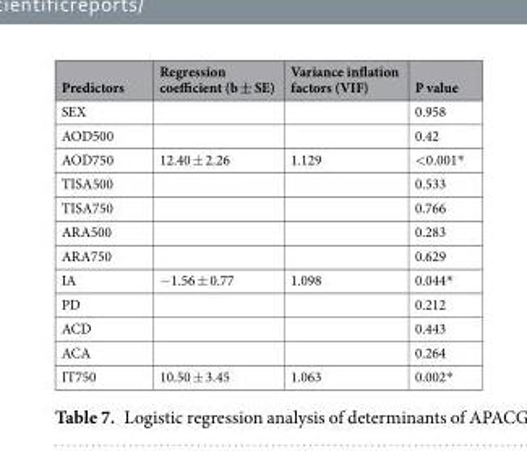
<table><thead><tr><td>Predictors</td><td>Regression coefficient (b ± SE)</td><td>Variance inflation factors (VIF)</td><td>P value</td></tr></thead><tbody><tr><td>SEX</td><td></td><td></td><td>0.958</td></tr><tr><td>AOD500</td><td></td><td></td><td>0.42</td></tr><tr><td>AOD750</td><td>12.40 ± 2.26</td><td>1.129</td><td>&lt;0.001*</td></tr><tr><td>TISA500</td><td></td><td></td><td>0.533</td></tr><tr><td>TISA750</td><td></td><td></td><td>0.766</td></tr><tr><td>ARA500</td><td></td><td></td><td>0.283</td></tr><tr><td>ARA750</td><td></td><td></td><td>0.629</td></tr><tr><td>IA</td><td>−1.56 ± 0.77</td><td>1.098</td><td>0.044*</td></tr><tr><td>PD</td><td></td><td></td><td>0.212</td></tr><tr><td>ACD</td><td></td><td></td><td>0.443</td></tr><tr><td>ACA</td><td></td><td></td><td>0.264</td></tr><tr><td>IT750</td><td>10.50 ± 3.45</td><td>1.063</td><td>0.002*</td></tr></tbody></table>